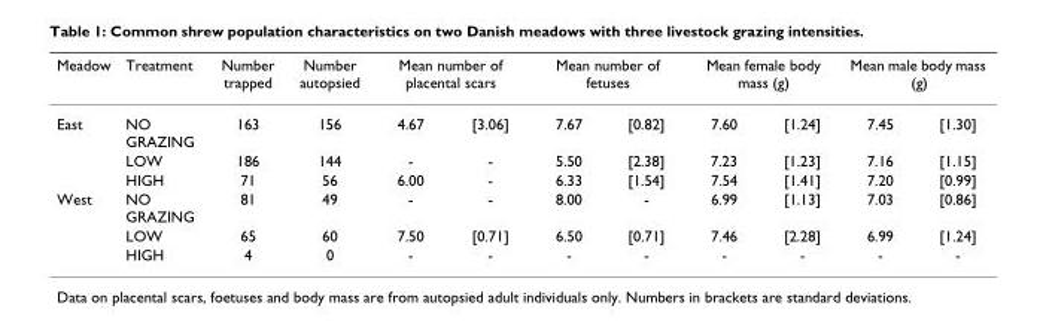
<table><thead><tr><td rowspan="2">Meadow East</td><td rowspan="2">Treatment NO GRAZING</td><td rowspan="2">Number trapped 163</td><td rowspan="2">Number autopsied 156</td><td colspan="2">Mean number of placental scars</td><td colspan="2">Mean number of fetuses</td><td colspan="2">Mean female body mass (g)</td><td colspan="2">Mean male body mass (g)</td></tr><tr><td>4.67</td><td>[3.06]</td><td>7.67</td><td>[0.82]</td><td>7.60</td><td>[1.24]</td><td>7.45</td><td>[1.30]</td></tr></thead><tbody><tr><td></td><td>LOW</td><td>186</td><td>144</td><td>-</td><td>-</td><td>5.50</td><td>[2.38]</td><td>7.23</td><td>[1.23]</td><td>7.16</td><td>[1.15]</td></tr><tr><td></td><td>HIGH</td><td>71</td><td>56</td><td>6.00</td><td>-</td><td>6.33</td><td>[1.54]</td><td>7.54</td><td>[1.41]</td><td>7.20</td><td>[0.99]</td></tr><tr><td rowspan="3">West</td><td>NO GRAZING</td><td>81</td><td>49</td><td>-</td><td>-</td><td>8.00</td><td>-</td><td>6.99</td><td>[1.13]</td><td>7.03</td><td>[0.86]</td></tr><tr><td>LOW</td><td>65</td><td>60</td><td>7.50</td><td>[0.71]</td><td>6.50</td><td>[0.71]</td><td>7.46</td><td>[2.28]</td><td>6.99</td><td>[1.24]</td></tr><tr><td>HIGH</td><td>4</td><td>0</td><td>-</td><td>-</td><td>-</td><td>-</td><td>-</td><td>-</td><td>-</td><td>-</td></tr></tbody></table>